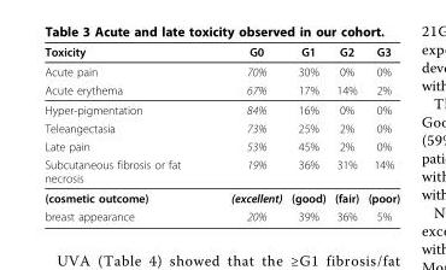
<table><thead><tr><td>Toxicity</td><td>G0</td><td>G1</td><td>G2</td><td>G3</td></tr></thead><tbody><tr><td>Acute pain</td><td>70%</td><td>30%</td><td>0%</td><td>0%</td></tr><tr><td>Acute erythema</td><td>67%</td><td>17%</td><td>14%</td><td>2%</td></tr><tr><td>Hyper-pigmentation</td><td>84%</td><td>16%</td><td>0%</td><td>0%</td></tr><tr><td>Teleangectasia</td><td>73%</td><td>25%</td><td>2%</td><td>0%</td></tr><tr><td>Late pain</td><td>53%</td><td>45%</td><td>2%</td><td>0%</td></tr><tr><td>Subcutaneous fibrosis or fat necrosis</td><td>19%</td><td>36%</td><td>31%</td><td>14%</td></tr><tr><td>(cosmetic outcome)</td><td>(excellent)</td><td>(good)</td><td>(fair)</td><td>(poor)</td></tr><tr><td>breast appearance</td><td>20%</td><td>39%</td><td>36%</td><td>5%</td></tr></tbody></table>